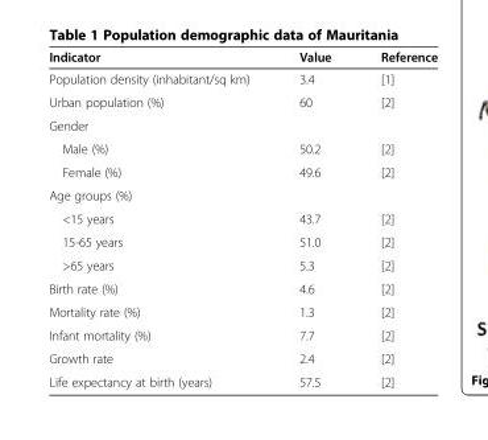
<table><thead><tr><td>Indicator</td><td>Value</td><td>Reference</td></tr></thead><tbody><tr><td>Population density (inhabitant/sq km)</td><td>3.4</td><td>[1]</td></tr><tr><td>Urban population (%)</td><td>60</td><td>[2]</td></tr><tr><td colspan="3">Gender</td></tr><tr><td>Male (%)</td><td>50.2</td><td>[2]</td></tr><tr><td>Female (%)</td><td>49.6</td><td>[2]</td></tr><tr><td colspan="3">Age groups (%)</td></tr><tr><td>&lt;15 years</td><td>43.7</td><td>[2]</td></tr><tr><td>15-65 years</td><td>51.0</td><td>[2]</td></tr><tr><td>&gt;65 years</td><td>5.3</td><td>[2]</td></tr><tr><td>Birth rate (%)</td><td>4.6</td><td>[2]</td></tr><tr><td>Mortality rate (%)</td><td>1.3</td><td>[2]</td></tr><tr><td>Infant mortality (%)</td><td>7.7</td><td>[2]</td></tr><tr><td>Growth rate</td><td>2.4</td><td>[2]</td></tr><tr><td>Life expectancy at birth (years)</td><td>57.5</td><td>[2]</td></tr></tbody></table>